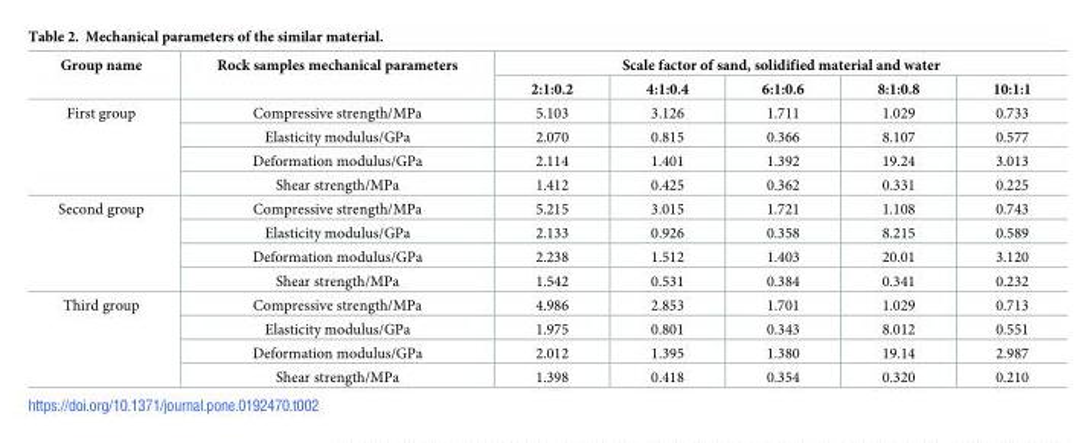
<table><thead><tr><td rowspan="2">Group name</td><td rowspan="2">Rock samples mechanical parameters</td><td colspan="5">Scale factor of sand, solidified material and water</td></tr><tr><td>2:1:0.2</td><td>4:1:0.4</td><td>6:1:0.6</td><td>8:1:0.8</td><td>10:1:1</td></tr></thead><tbody><tr><td rowspan="4">First group</td><td>Compressive strength/MPa</td><td>5.103</td><td>3.126</td><td>1.711</td><td>1.029</td><td>0.733</td></tr><tr><td>Elasticity modulus/GPa</td><td>2.070</td><td>0.815</td><td>0.366</td><td>8.107</td><td>0.577</td></tr><tr><td>Deformation modulus/GPa</td><td>2.114</td><td>1.401</td><td>1.392</td><td>19.24</td><td>3.013</td></tr><tr><td>Shear strength/MPa</td><td>1.412</td><td>0.425</td><td>0.362</td><td>0.331</td><td>0.225</td></tr><tr><td rowspan="4">Second group</td><td>Compressive strength/MPa</td><td>5.215</td><td>3.015</td><td>1.721</td><td>1.108</td><td>0.743</td></tr><tr><td>Elasticity modulus/GPa</td><td>2.133</td><td>0.926</td><td>0.358</td><td>8.215</td><td>0.589</td></tr><tr><td>Deformation modulus/GPa</td><td>2.238</td><td>1.512</td><td>1.403</td><td>20.01</td><td>3.120</td></tr><tr><td>Shear strength/MPa</td><td>1.542</td><td>0.531</td><td>0.384</td><td>0.341</td><td>0.232</td></tr><tr><td rowspan="4">Third group</td><td>Compressive strength/MPa</td><td>4.986</td><td>2.853</td><td>1.701</td><td>1.029</td><td>0.713</td></tr><tr><td>Elasticity modulus/GPa</td><td>1.975</td><td>0.801</td><td>0.343</td><td>8.012</td><td>0.551</td></tr><tr><td>Deformation modulus/GPa</td><td>2.012</td><td>1.395</td><td>1.380</td><td>19.14</td><td>2.987</td></tr><tr><td>Shear strength/MPa</td><td>1.398</td><td>0.418</td><td>0.354</td><td>0.320</td><td>0.210</td></tr></tbody></table>